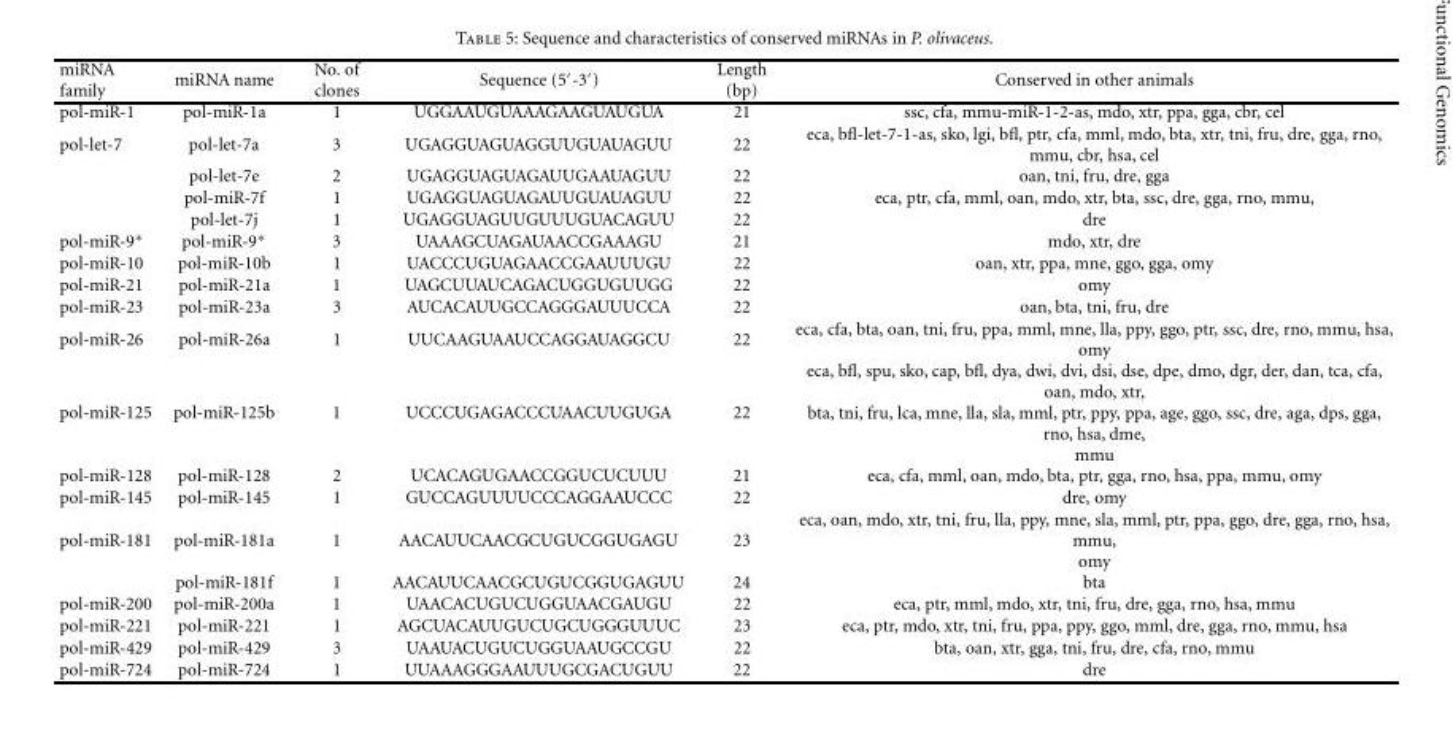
<table><thead><tr><td>miRNA family</td><td>miRNA name</td><td>No. of clones</td><td>Sequence (5′-3′)</td><td>Length (bp)</td><td>Conserved in other animals</td></tr></thead><tbody><tr><td>pol-miR-1</td><td>pol-miR-1a</td><td>1</td><td>UGGAAUGUAAAGAAGUAUGUA</td><td>21</td><td>ssc, cfa, mmu-miR-1-2-as, mdo, xtr, ppa, gga, cbr, cel</td></tr><tr><td rowspan="4">pol-let-7</td><td>pol-let-7a</td><td>3</td><td>UGAGGUAGUAGGUUGUAUAGUU</td><td>22</td><td>eca, bfl-let-7-1-as, sko, lgi, bfl, ptr, cfa, mml, mdo, bta, xtr, tni, fru, dre, gga, rno, mmu, cbr, hsa, cel</td></tr><tr><td>pol-let-7e</td><td>2</td><td>UGAGGUAGUAGAUUGAAUAGUU</td><td>22</td><td>oan, tni, fru, dre, gga</td></tr><tr><td>pol-miR-7f</td><td>1</td><td>UGAGGUAGUAGAUUGUAUAGUU</td><td>22</td><td>eca, ptr, cfa, mml, oan, mdo, xtr, bta, ssc, dre, gga, rno, mmu,</td></tr><tr><td>pol-let-7j</td><td>1</td><td>UGAGGUAGUUGUUUGUACAGUU</td><td>22</td><td>dre</td></tr><tr><td>pol-miR-9∗</td><td>pol-miR-9∗</td><td>3</td><td>UAAAGCUAGAUAACCGAAAGU</td><td>21</td><td>mdo, xtr, dre</td></tr><tr><td>pol-miR-10</td><td>pol-miR-10b</td><td>1</td><td>UACCCUGUAGAACCGAAUUUGU</td><td>22</td><td>oan, xtr, ppa, mne, ggo, gga, omy</td></tr><tr><td>pol-miR-21</td><td>pol-miR-21a</td><td>1</td><td>UAGCUUAUCAGACUGGUGUUGG</td><td>22</td><td>omy</td></tr><tr><td>pol-miR-23</td><td>pol-miR-23a</td><td>3</td><td>AUCACAUUGCCAGGGAUUUCCA</td><td>22</td><td>oan, bta, tni, fru, dre</td></tr><tr><td>pol-miR-26</td><td>pol-miR-26a</td><td>1</td><td>UUCAAGUAAUCCAGGAUAGGCU</td><td>22</td><td>eca, cfa, bta, oan, tni, fru, ppa, mml, mne, lla, ppy, ggo, ptr, ssc, dre, rno, mmu, hsa, omy</td></tr><tr><td>pol-miR-125</td><td>pol-miR-125b</td><td>1</td><td>UCCCUGAGACCCUAACUUGUGA</td><td>22</td><td>eca, bfl, spu, sko, cap, bfl, dya, dwi, dvi, dsi, dse, dpe, dmo, dgr, der, dan, tca, cfa, oan, mdo, xtr, bta, tni, fru, lca, mne, lla, sla, mml, ptr, ppy, ppa, age, ggo, ssc, dre, aga, dps, gga, rno, hsa, dme, mmu</td></tr><tr><td>pol-miR-128</td><td>pol-miR-128</td><td>2</td><td>UCACAGUGAACCGGUCUCUUU</td><td>21</td><td>eca, cfa, mml, oan, mdo, bta, ptr, gga, rno, hsa, ppa, mmu, omy</td></tr><tr><td>pol-miR-145</td><td>pol-miR-145</td><td>1</td><td>GUCCAGUUUUCCCAGGAAUCCC</td><td>22</td><td>dre, omy</td></tr><tr><td rowspan="2">pol-miR-181</td><td>pol-miR-181a</td><td>1</td><td>AACAUUCAACGCUGUCGGUGAGU</td><td>23</td><td>eca, oan, mdo, xtr, tni, fru, lla, ppy, mne, sla, mml, ptr, ppa, ggo, dre, gga, rno, hsa, mmu, omy</td></tr><tr><td>pol-miR-181f</td><td>1</td><td>AACAUUCAACGCUGUCGGUGAGUU</td><td>24</td><td>bta</td></tr><tr><td>pol-miR-200</td><td>pol-miR-200a</td><td>1</td><td>UAACACUGUCUGGUAACGAUGU</td><td>22</td><td>eca, ptr, mml, mdo, xtr, tni, fru, dre, gga, rno, hsa, mmu</td></tr><tr><td>pol-miR-221</td><td>pol-miR-221</td><td>1</td><td>AGCUACAUUGUCUGCUGGGUUUC</td><td>23</td><td>eca, ptr, mdo, xtr, tni, fru, ppa, ppy, ggo, mml, dre, gga, rno, mmu, hsa</td></tr><tr><td>pol-miR-429</td><td>pol-miR-429</td><td>3</td><td>UAAUACUGUCUGGUAAUGCCGU</td><td>22</td><td>bta, oan, xtr, gga, tni, fru, dre, cfa, rno, mmu</td></tr><tr><td>pol-miR-724</td><td>pol-miR-724</td><td>1</td><td>UUAAAGGGAAUUUGCGACUGUU</td><td>22</td><td>dre</td></tr></tbody></table>